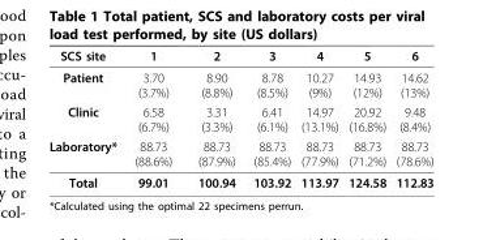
<table><thead><tr><td>SCS site</td><td>1</td><td>2</td><td>3</td><td>4</td><td>5</td><td>6</td></tr></thead><tbody><tr><td>Patient</td><td>3.70 (3.7%)</td><td>8.90 (8.8%)</td><td>8.78 (8.5%)</td><td>10.27 (9%)</td><td>14.93 (12%)</td><td>14.62 (13%)</td></tr><tr><td>Clinic</td><td>6.58 (6.7%)</td><td>3.31 (3.3%)</td><td>6.41 (6.1%)</td><td>14.97 (13.1%)</td><td>20.92 (16.8%)</td><td>9.48 (8.4%)</td></tr><tr><td>Laboratory*</td><td>88.73 (88.6%)</td><td>88.73 (87.9%)</td><td>88.73 (85.4%)</td><td>88.73 (77.9%)</td><td>88.73 (71.2%)</td><td>88.73 (78.6%)</td></tr><tr><td>Total</td><td>99.01</td><td>100.94</td><td>103.92</td><td>113.97</td><td>124.58</td><td>112.83</td></tr></tbody></table>